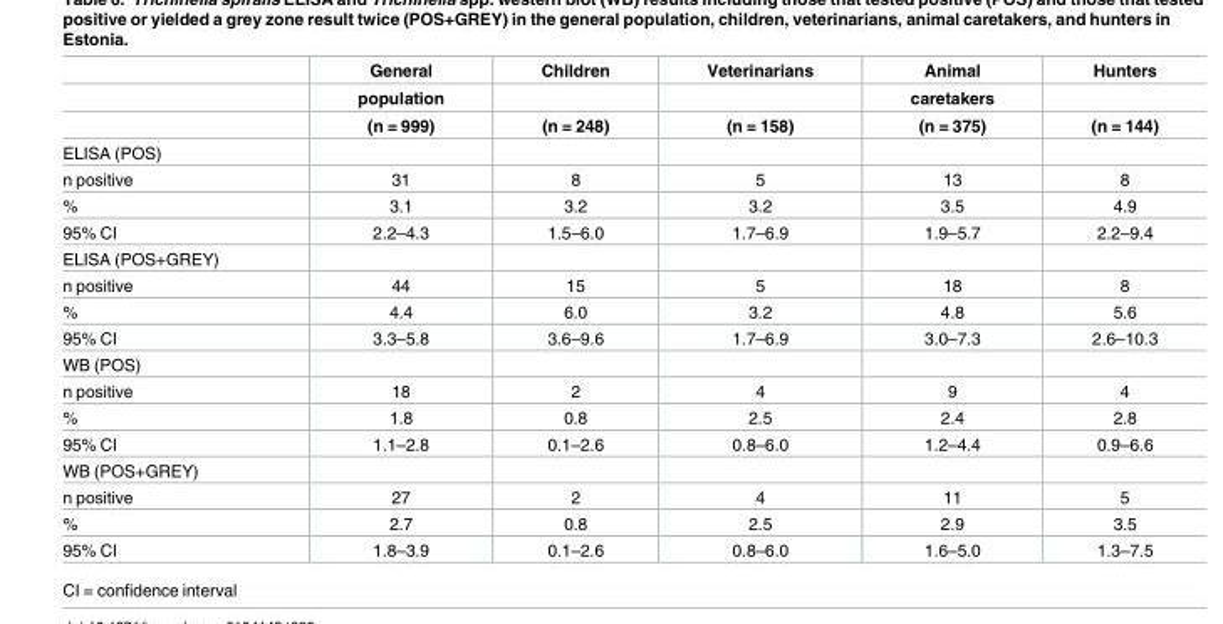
<table><thead><tr><td rowspan="3"></td><td rowspan="3">General population (n = 999)</td><td rowspan="3">Children (n = 248)</td><td rowspan="3">Veterinarians (n = 158)</td><td rowspan="3">Animal caretakers (n = 375)</td><td rowspan="3">Hunters (n = 144)</td></tr><tr></tr><tr></tr></thead><tbody><tr><td colspan="6">ELISA (POS)</td></tr><tr><td>n positive</td><td>31</td><td>8</td><td>5</td><td>13</td><td>8</td></tr><tr><td>%</td><td>3.1</td><td>3.2</td><td>3.2</td><td>3.5</td><td>4.9</td></tr><tr><td>95% CI</td><td>2.2–4.3</td><td>1.5–6.0</td><td>1.7–6.9</td><td>1.9–5.7</td><td>2.2–9.4</td></tr><tr><td colspan="6">ELISA (POS+GREY)</td></tr><tr><td>n positive</td><td>44</td><td>15</td><td>5</td><td>18</td><td>8</td></tr><tr><td>%</td><td>4.4</td><td>6.0</td><td>3.2</td><td>4.8</td><td>5.6</td></tr><tr><td>95% CI</td><td>3.3–5.8</td><td>3.6–9.6</td><td>1.7–6.9</td><td>3.0–7.3</td><td>2.6–10.3</td></tr><tr><td colspan="6">WB (POS)</td></tr><tr><td>n positive</td><td>18</td><td>2</td><td>4</td><td>9</td><td>4</td></tr><tr><td>%</td><td>1.8</td><td>0.8</td><td>2.5</td><td>2.4</td><td>2.8</td></tr><tr><td>95% CI</td><td>1.1–2.8</td><td>0.1–2.6</td><td>0.8–6.0</td><td>1.2–4.4</td><td>0.9–6.6</td></tr><tr><td colspan="6">WB (POS+GREY)</td></tr><tr><td>n positive</td><td>27</td><td>2</td><td>4</td><td>11</td><td>5</td></tr><tr><td>%</td><td>2.7</td><td>0.8</td><td>2.5</td><td>2.9</td><td>3.5</td></tr><tr><td>95% CI</td><td>1.8–3.9</td><td>0.1–2.6</td><td>0.8–6.0</td><td>1.6–5.0</td><td>1.3–7.5</td></tr></tbody></table>